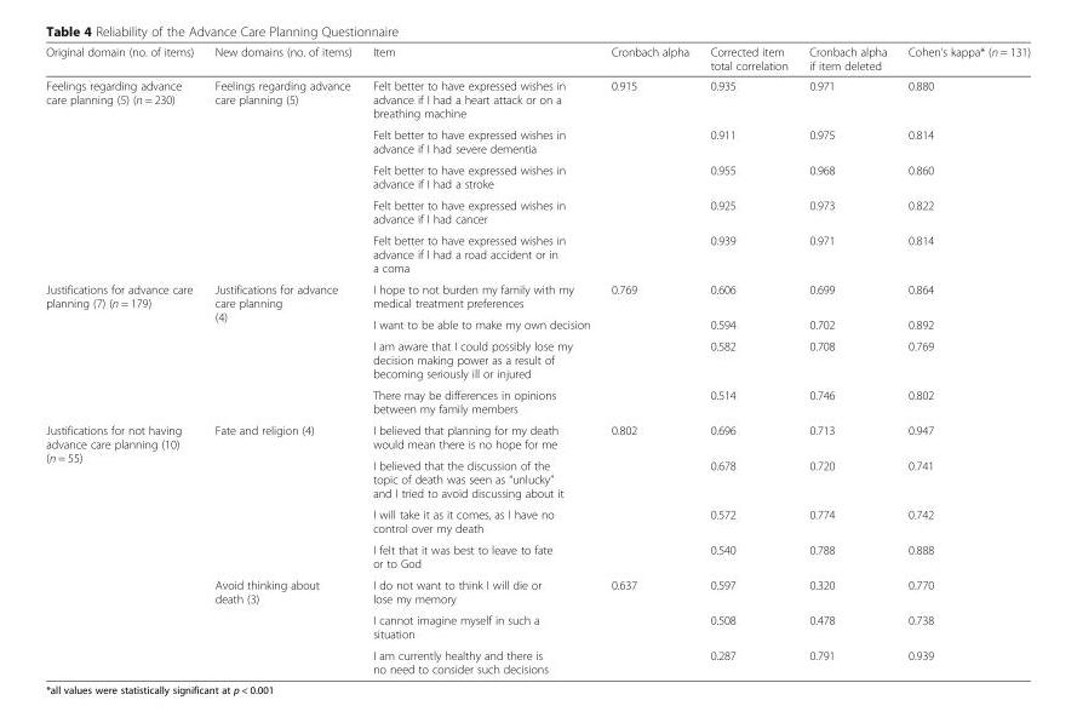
<table><thead><tr><td>Original domain (no. of items)</td><td>New domains (no. of items)</td><td>Item</td><td>Cronbach alpha</td><td>Corrected item total correlation</td><td>Cronbach alpha if item deleted</td><td>Cohen’s kappa* (n = 131)</td></tr></thead><tbody><tr><td rowspan="5">Feelings regarding advance care planning (5) (n = 230)</td><td rowspan="5">Feelings regarding advance care planning (5)</td><td>Felt better to have expressed wishes in advance if I had a heart attack or on a breathing machine</td><td rowspan="5">0.915</td><td>0.935</td><td>0.971</td><td>0.880</td></tr><tr><td>Felt better to have expressed wishes in advance if I had severe dementia</td><td>0.911</td><td>0.975</td><td>0.814</td></tr><tr><td>Felt better to have expressed wishes in advance if I had a stroke</td><td>0.955</td><td>0.968</td><td>0.860</td></tr><tr><td>Felt better to have expressed wishes in advance if I had cancer</td><td>0.925</td><td>0.973</td><td>0.822</td></tr><tr><td>Felt better to have expressed wishes in advance if I had a road accident or in a coma</td><td>0.939</td><td>0.971</td><td>0.814</td></tr><tr><td rowspan="4">Justifications for advance care planning (7) (n = 179)</td><td rowspan="4">Justifications for advance care planning (4)</td><td>I hope to not burden my family with my medical treatment preferences</td><td rowspan="4">0.769</td><td>0.606</td><td>0.699</td><td>0.864</td></tr><tr><td>I want to be able to make my own decision</td><td>0.594</td><td>0.702</td><td>0.892</td></tr><tr><td>I am aware that I could possibly lose my decision making power as a result of becoming seriously ill or injured</td><td>0.582</td><td>0.708</td><td>0.769</td></tr><tr><td>There may be differences in opinions between my family members</td><td>0.514</td><td>0.746</td><td>0.802</td></tr><tr><td rowspan="7">Justifications for not having advance care planning (10) (n = 55)</td><td rowspan="4">Fate and religion (4)</td><td>I believed that planning for my death would mean there is no hope for me</td><td rowspan="4">0.802</td><td>0.696</td><td>0.713</td><td>0.947</td></tr><tr><td>I believed that the discussion of the topic of death was seen as “unlucky” and I tried to avoid discussing about it</td><td>0.678</td><td>0.720</td><td>0.741</td></tr><tr><td>I will take it as it comes, as I have no control over my death</td><td>0.572</td><td>0.774</td><td>0.742</td></tr><tr><td>I felt that it was best to leave to fate or to God</td><td>0.540</td><td>0.788</td><td>0.888</td></tr><tr><td rowspan="3">Avoid thinking about death (3)</td><td>I do not want to think I will die or lose my memory</td><td rowspan="3">0.637</td><td>0.597</td><td>0.320</td><td>0.770</td></tr><tr><td>I cannot imagine myself in such a situation</td><td>0.508</td><td>0.478</td><td>0.738</td></tr><tr><td>I am currently healthy and there is no need to consider such decisions</td><td>0.287</td><td>0.791</td><td>0.939</td></tr></tbody></table>